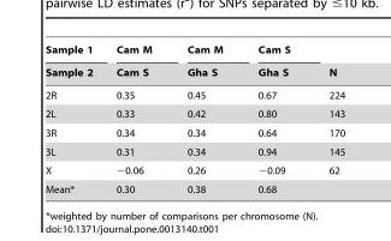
<table><thead><tr><td rowspan="2">Sample 1 Sample 2</td><td rowspan="2">Cam M Cam S</td><td rowspan="2">Cam M Gha S</td><td rowspan="2">Cam S Gha S</td><td rowspan="2">N</td></tr><tr></tr></thead><tbody><tr><td>2R</td><td>0.35</td><td>0.45</td><td>0.67</td><td>224</td></tr><tr><td>2L</td><td>0.33</td><td>0.42</td><td>0.80</td><td>143</td></tr><tr><td>3R</td><td>0.34</td><td>0.34</td><td>0.64</td><td>170</td></tr><tr><td>3L</td><td>0.31</td><td>0.34</td><td>0.94</td><td>145</td></tr><tr><td>X</td><td>−0.06</td><td>0.26</td><td>−0.09</td><td>62</td></tr><tr><td>Mean*</td><td>0.30</td><td>0.38</td><td>0.68</td><td></td></tr></tbody></table>